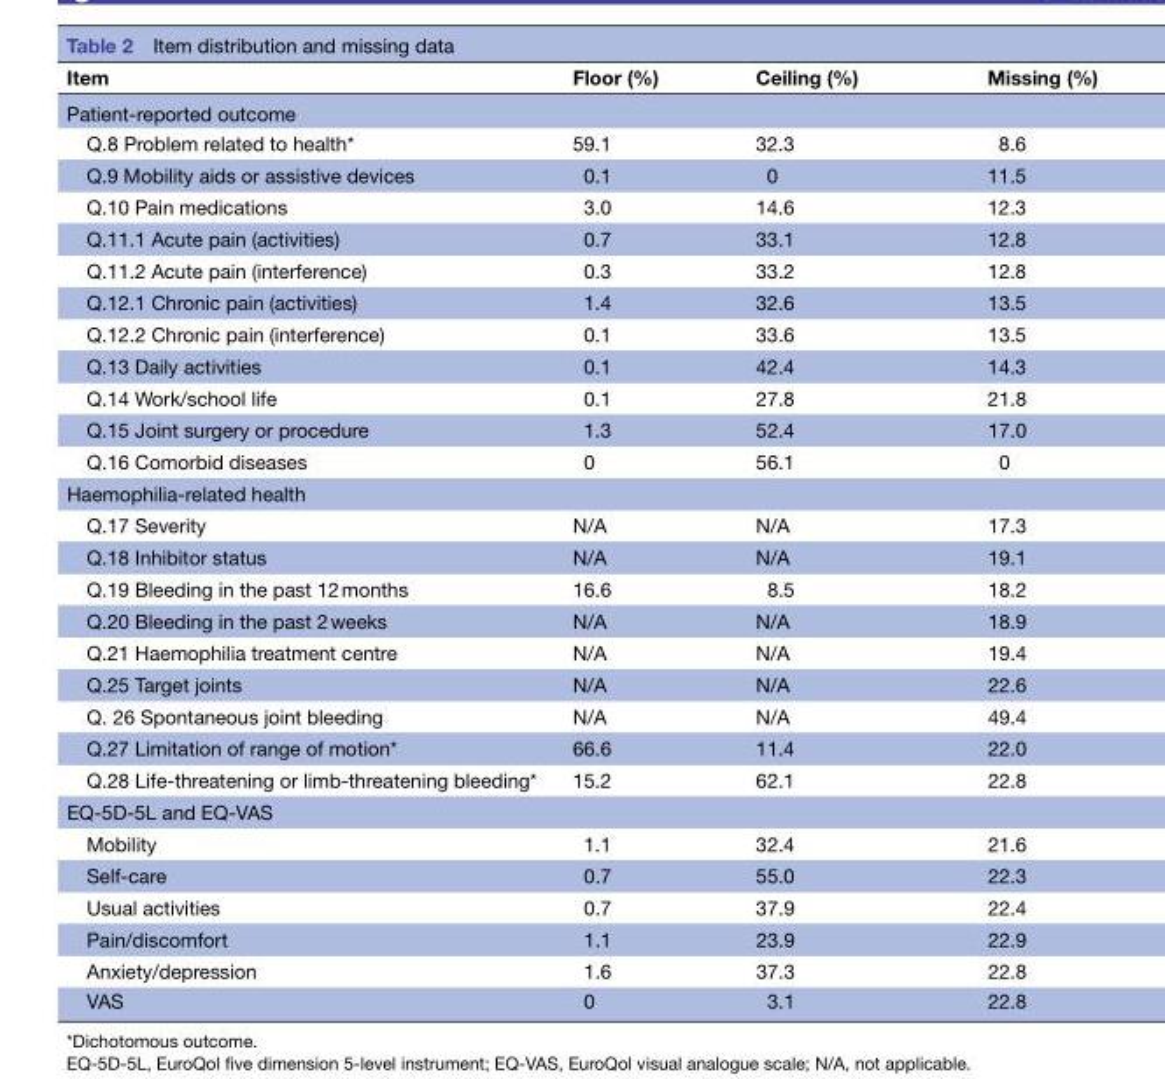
<table><thead><tr><td>Item</td><td>Floor (%)</td><td>Ceiling (%)</td><td>Missing (%)</td></tr></thead><tbody><tr><td colspan="4">Patient-reported outcome</td></tr><tr><td>Q.8 Problem related to health*</td><td>59.1</td><td>32.3</td><td>8.6</td></tr><tr><td>Q.9 Mobility aids or assistive devices</td><td>0.1</td><td>0</td><td>11.5</td></tr><tr><td>Q.10 Pain medications</td><td>3.0</td><td>14.6</td><td>12.3</td></tr><tr><td>Q.11.1 Acute pain (activities)</td><td>0.7</td><td>33.1</td><td>12.8</td></tr><tr><td>Q.11.2 Acute pain (interference)</td><td>0.3</td><td>33.2</td><td>12.8</td></tr><tr><td>Q.12.1 Chronic pain (activities)</td><td>1.4</td><td>32.6</td><td>13.5</td></tr><tr><td>Q.12.2 Chronic pain (interference)</td><td>0.1</td><td>33.6</td><td>13.5</td></tr><tr><td>Q.13 Daily activities</td><td>0.1</td><td>42.4</td><td>14.3</td></tr><tr><td>Q.14 Work/school life</td><td>0.1</td><td>27.8</td><td>21.8</td></tr><tr><td>Q.15 Joint surgery or procedure</td><td>1.3</td><td>52.4</td><td>17.0</td></tr><tr><td>Q.16 Comorbid diseases</td><td>0</td><td>56.1</td><td>0</td></tr><tr><td colspan="4">Haemophilia-related health</td></tr><tr><td>Q.17 Severity</td><td>N/A</td><td>N/A</td><td>17.3</td></tr><tr><td>Q.18 Inhibitor status</td><td>N/A</td><td>N/A</td><td>19.1</td></tr><tr><td>Q.19 Bleeding in the past 12 months</td><td>16.6</td><td>8.5</td><td>18.2</td></tr><tr><td>Q.20 Bleeding in the past 2 weeks</td><td>N/A</td><td>N/A</td><td>18.9</td></tr><tr><td>Q.21 Haemophilia treatment centre</td><td>N/A</td><td>N/A</td><td>19.4</td></tr><tr><td>Q.25 Target joints</td><td>N/A</td><td>N/A</td><td>22.6</td></tr><tr><td>Q. 26 Spontaneous joint bleeding</td><td>N/A</td><td>N/A</td><td>49.4</td></tr><tr><td>Q.27 Limitation of range of motion*</td><td>66.6</td><td>11.4</td><td>22.0</td></tr><tr><td>Q.28 Life-threatening or limb-threatening bleeding*</td><td>15.2</td><td>62.1</td><td>22.8</td></tr><tr><td colspan="4">EQ-5D-5L and EQ-VAS</td></tr><tr><td>Mobility</td><td>1.1</td><td>32.4</td><td>21.6</td></tr><tr><td>Self-care</td><td>0.7</td><td>55.0</td><td>22.3</td></tr><tr><td>Usual activities</td><td>0.7</td><td>37.9</td><td>22.4</td></tr><tr><td>Pain/discomfort</td><td>1.1</td><td>23.9</td><td>22.9</td></tr><tr><td>Anxiety/depression</td><td>1.6</td><td>37.3</td><td>22.8</td></tr><tr><td>VAS</td><td>0</td><td>3.1</td><td>22.8</td></tr></tbody></table>